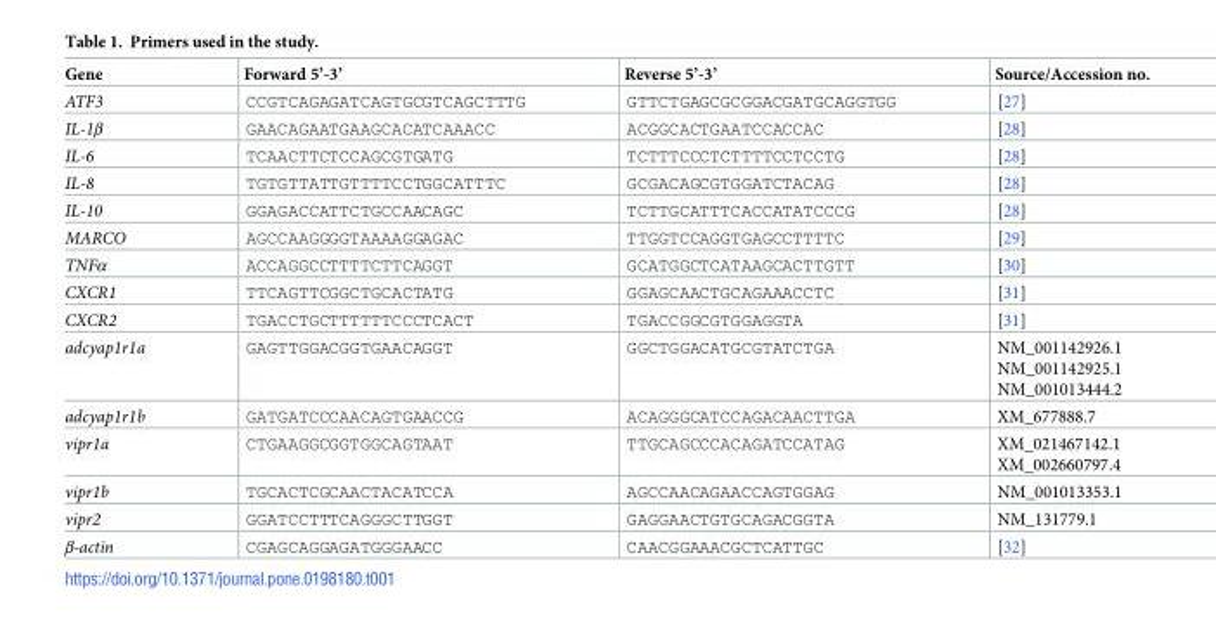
<table><thead><tr><td>Gene</td><td>Forward 5’-3’</td><td>Reverse 5’-3’</td><td>Source/Accession no.</td></tr></thead><tbody><tr><td>ATF3</td><td>CCGTCAGAGATCAGTGCGTCAGCTTTG</td><td>GTTCTGAGCGCGGACGATGCAGGTGG</td><td>[27]</td></tr><tr><td>IL-1β</td><td>GAACAGAATGAAGCACATCAAACC</td><td>ACGGCACTGAATCCACCAC</td><td>[28]</td></tr><tr><td>IL-6</td><td>TCAACTTCTCCAGCGTGATG</td><td>TCTTTCCCTCTTTTCCTCCTG</td><td>[28]</td></tr><tr><td>IL-8</td><td>TGTGTTATTGTTTTCCTGGCATTTC</td><td>GCGACAGCGTGGATCTACAG</td><td>[28]</td></tr><tr><td>IL-10</td><td>GGAGACCATTCTGCCAACAGC</td><td>TCTTGCATTTCACCATATCCCG</td><td>[28]</td></tr><tr><td>MARCO</td><td>AGCCAAGGGGTAAAAGGAGAC</td><td>TTGGTCCAGGTGAGCCTTTTC</td><td>[29]</td></tr><tr><td>TNFα</td><td>ACCAGGCCTTTTCTTCAGGT</td><td>GCATGGCTCATAAGCACTTGTT</td><td>[30]</td></tr><tr><td>CXCR1</td><td>TTCAGTTCGGCTGCACTATG</td><td>GGAGCAACTGCAGAAACCTC</td><td>[31]</td></tr><tr><td>CXCR2</td><td>TGACCTGCTTTTTTCCCTCACT</td><td>TGACCGGCGTGGAGGTA</td><td>[31]</td></tr><tr><td>adcyap1r1a</td><td>GAGTTGGACGGTGAACAGGT</td><td>GGCTGGACATGCGTATCTGA</td><td>NM_001142926.1 NM_001142925.1 NM_001013444.2</td></tr><tr><td>adcyap1r1b</td><td>GATGATCCCAACAGTGAACCG</td><td>ACAGGGCATCCAGACAACTTGA</td><td>XM_677888.7</td></tr><tr><td>vipr1a</td><td>CTGAAGGCGGTGGCAGTAAT</td><td>TTGCAGCCCACAGATCCATAG</td><td>XM_021467142.1 XM_002660797.4</td></tr><tr><td>vipr1b</td><td>TGCACTCGCAACTACATCCA</td><td>AGCCAACAGAACCAGTGGAG</td><td>NM_001013353.1</td></tr><tr><td>vipr2</td><td>GGATCCTTTCAGGGCTTGGT</td><td>GAGGAACTGTGCAGACGGTA</td><td>NM_131779.1</td></tr><tr><td>β-actin</td><td>CGAGCAGGAGATGGGAACC</td><td>CAACGGAAACGCTCATTGC</td><td>[32]</td></tr></tbody></table>